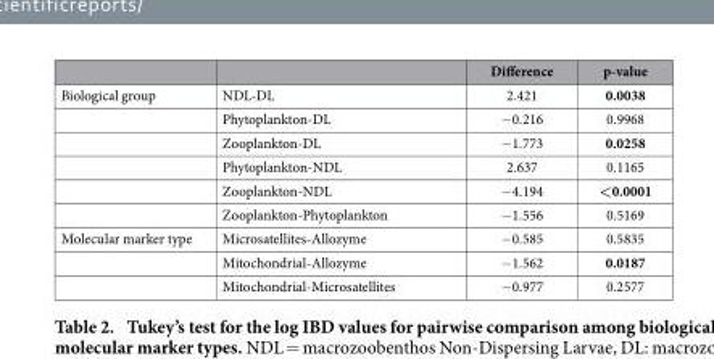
<table><thead><tr><td></td><td></td><td>Difference</td><td>p-value</td></tr></thead><tbody><tr><td rowspan="6">Biological group</td><td>NDL-DL</td><td>2.421</td><td>0.0038</td></tr><tr><td>Phytoplankton-DL</td><td>− 0.216</td><td>0.9968</td></tr><tr><td>Zooplankton-DL</td><td>− 1.773</td><td>0.0258</td></tr><tr><td>Phytoplankton-NDL</td><td>2.637</td><td>0.1165</td></tr><tr><td>Zooplankton-NDL</td><td>− 4.194</td><td>&lt;0.0001</td></tr><tr><td>Zooplankton-Phytoplankton</td><td>− 1.556</td><td>0.5169</td></tr><tr><td rowspan="3">Molecular marker type</td><td>Microsatellites-Allozyme</td><td>− 0.585</td><td>0.5835</td></tr><tr><td>Mitochondrial-Allozyme</td><td>− 1.562</td><td>0.0187</td></tr><tr><td>Mitochondrial-Microsatellites</td><td>− 0.977</td><td>0.2577</td></tr></tbody></table>